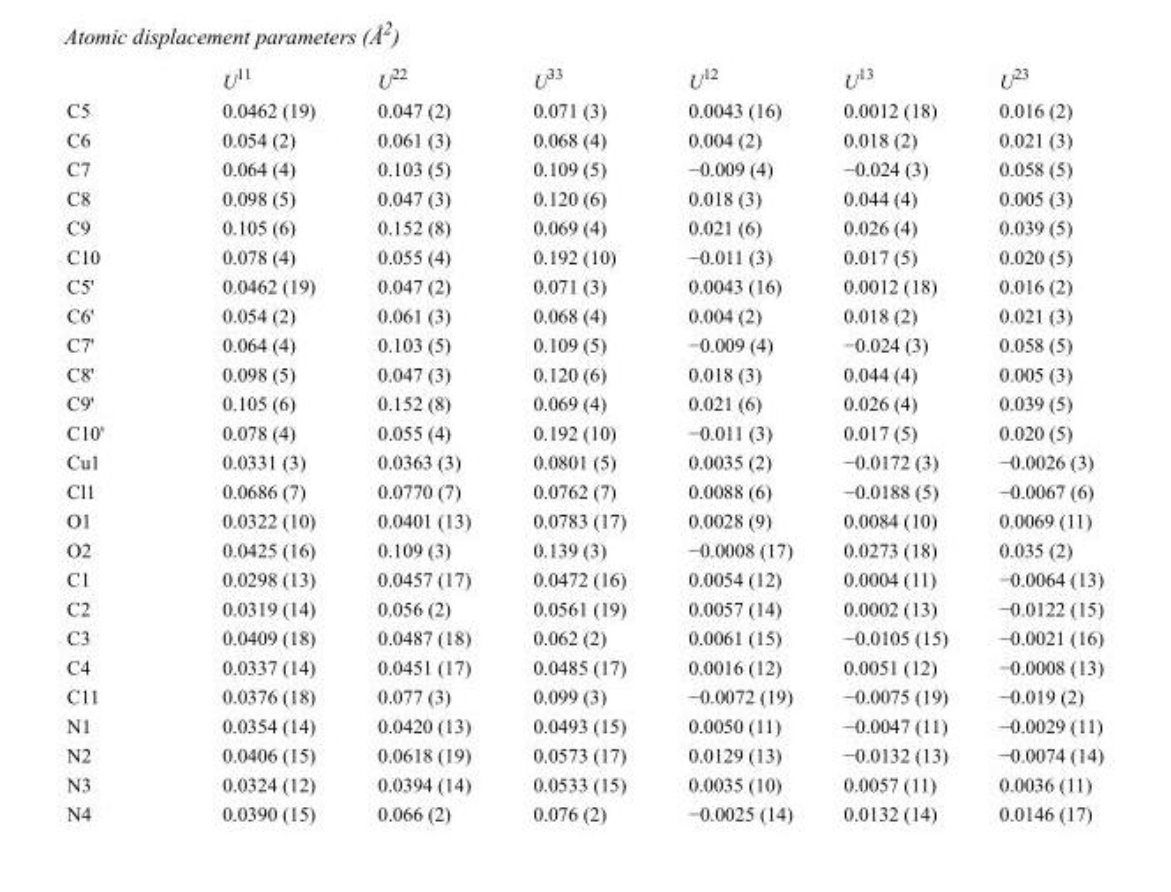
<table><thead><tr><td></td><td>U<sup>11</sup></td><td>U<sup>22</sup></td><td>U<sup>33</sup></td><td>U<sup>12</sup></td><td>U<sup>13</sup></td><td>U<sup>23</sup></td></tr></thead><tbody><tr><td>C5</td><td>0.0462 (19)</td><td>0.047 (2)</td><td>0.071 (3)</td><td>0.0043 (16)</td><td>0.0012 (18)</td><td>0.016 (2)</td></tr><tr><td>C6</td><td>0.054 (2)</td><td>0.061 (3)</td><td>0.068 (4)</td><td>0.004 (2)</td><td>0.018 (2)</td><td>0.021 (3)</td></tr><tr><td>C7</td><td>0.064 (4)</td><td>0.103 (5)</td><td>0.109 (5)</td><td>−0.009 (4)</td><td>−0.024 (3)</td><td>0.058 (5)</td></tr><tr><td>C8</td><td>0.098 (5)</td><td>0.047 (3)</td><td>0.120 (6)</td><td>0.018 (3)</td><td>0.044 (4)</td><td>0.005 (3)</td></tr><tr><td>C9</td><td>0.105 (6)</td><td>0.152 (8)</td><td>0.069 (4)</td><td>0.021 (6)</td><td>0.026 (4)</td><td>0.039 (5)</td></tr><tr><td>C10</td><td>0.078 (4)</td><td>0.055 (4)</td><td>0.192 (10)</td><td>−0.011 (3)</td><td>0.017 (5)</td><td>0.020 (5)</td></tr><tr><td>C5&#x27;</td><td>0.0462 (19)</td><td>0.047 (2)</td><td>0.071 (3)</td><td>0.0043 (16)</td><td>0.0012 (18)</td><td>0.016 (2)</td></tr><tr><td>C6&#x27;</td><td>0.054 (2)</td><td>0.061 (3)</td><td>0.068 (4)</td><td>0.004 (2)</td><td>0.018 (2)</td><td>0.021 (3)</td></tr><tr><td>C7&#x27;</td><td>0.064 (4)</td><td>0.103 (5)</td><td>0.109 (5)</td><td>−0.009 (4)</td><td>−0.024 (3)</td><td>0.058 (5)</td></tr><tr><td>C8&#x27;</td><td>0.098 (5)</td><td>0.047 (3)</td><td>0.120 (6)</td><td>0.018 (3)</td><td>0.044 (4)</td><td>0.005 (3)</td></tr><tr><td>C9&#x27;</td><td>0.105 (6)</td><td>0.152 (8)</td><td>0.069 (4)</td><td>0.021 (6)</td><td>0.026 (4)</td><td>0.039 (5)</td></tr><tr><td>C10&#x27;</td><td>0.078 (4)</td><td>0.055 (4)</td><td>0.192 (10)</td><td>−0.011 (3)</td><td>0.017 (5)</td><td>0.020 (5)</td></tr><tr><td>Cu1</td><td>0.0331 (3)</td><td>0.0363 (3)</td><td>0.0801 (5)</td><td>0.0035 (2)</td><td>−0.0172 (3)</td><td>−0.0026 (3)</td></tr><tr><td>Cl1</td><td>0.0686 (7)</td><td>0.0770 (7)</td><td>0.0762 (7)</td><td>0.0088 (6)</td><td>−0.0188 (5)</td><td>−0.0067 (6)</td></tr><tr><td>O1</td><td>0.0322 (10)</td><td>0.0401 (13)</td><td>0.0783 (17)</td><td>0.0028 (9)</td><td>0.0084 (10)</td><td>0.0069 (11)</td></tr><tr><td>O2</td><td>0.0425 (16)</td><td>0.109 (3)</td><td>0.139 (3)</td><td>−0.0008 (17)</td><td>0.0273 (18)</td><td>0.035 (2)</td></tr><tr><td>C1</td><td>0.0298 (13)</td><td>0.0457 (17)</td><td>0.0472 (16)</td><td>0.0054 (12)</td><td>0.0004 (11)</td><td>−0.0064 (13)</td></tr><tr><td>C2</td><td>0.0319 (14)</td><td>0.056 (2)</td><td>0.0561 (19)</td><td>0.0057 (14)</td><td>0.0002 (13)</td><td>−0.0122 (15)</td></tr><tr><td>C3</td><td>0.0409 (18)</td><td>0.0487 (18)</td><td>0.062 (2)</td><td>0.0061 (15)</td><td>−0.0105 (15)</td><td>−0.0021 (16)</td></tr><tr><td>C4</td><td>0.0337 (14)</td><td>0.0451 (17)</td><td>0.0485 (17)</td><td>0.0016 (12)</td><td>0.0051 (12)</td><td>−0.0008 (13)</td></tr><tr><td>C11</td><td>0.0376 (18)</td><td>0.077 (3)</td><td>0.099 (3)</td><td>−0.0072 (19)</td><td>−0.0075 (19)</td><td>−0.019 (2)</td></tr><tr><td>N1</td><td>0.0354 (14)</td><td>0.0420 (13)</td><td>0.0493 (15)</td><td>0.0050 (11)</td><td>−0.0047 (11)</td><td>−0.0029 (11)</td></tr><tr><td>N2</td><td>0.0406 (15)</td><td>0.0618 (19)</td><td>0.0573 (17)</td><td>0.0129 (13)</td><td>−0.0132 (13)</td><td>−0.0074 (14)</td></tr><tr><td>N3</td><td>0.0324 (12)</td><td>0.0394 (14)</td><td>0.0533 (15)</td><td>0.0035 (10)</td><td>0.0057 (11)</td><td>0.0036 (11)</td></tr><tr><td>N4</td><td>0.0390 (15)</td><td>0.066 (2)</td><td>0.076 (2)</td><td>−0.0025 (14)</td><td>0.0132 (14)</td><td>0.0146 (17)</td></tr></tbody></table>